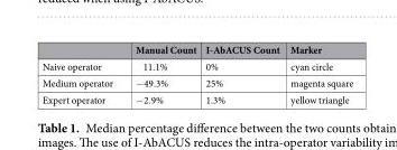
<table><thead><tr><td></td><td>Manual Count</td><td>I-AbACUS Count</td><td>Marker</td></tr></thead><tbody><tr><td>Naive operator</td><td>11.1%</td><td>0%</td><td>cyan circle</td></tr><tr><td>Medium operator</td><td>−49.3%</td><td>25%</td><td>magenta square</td></tr><tr><td>Expert operator</td><td>−2.9%</td><td>1.3%</td><td>yellow triangle</td></tr></tbody></table>